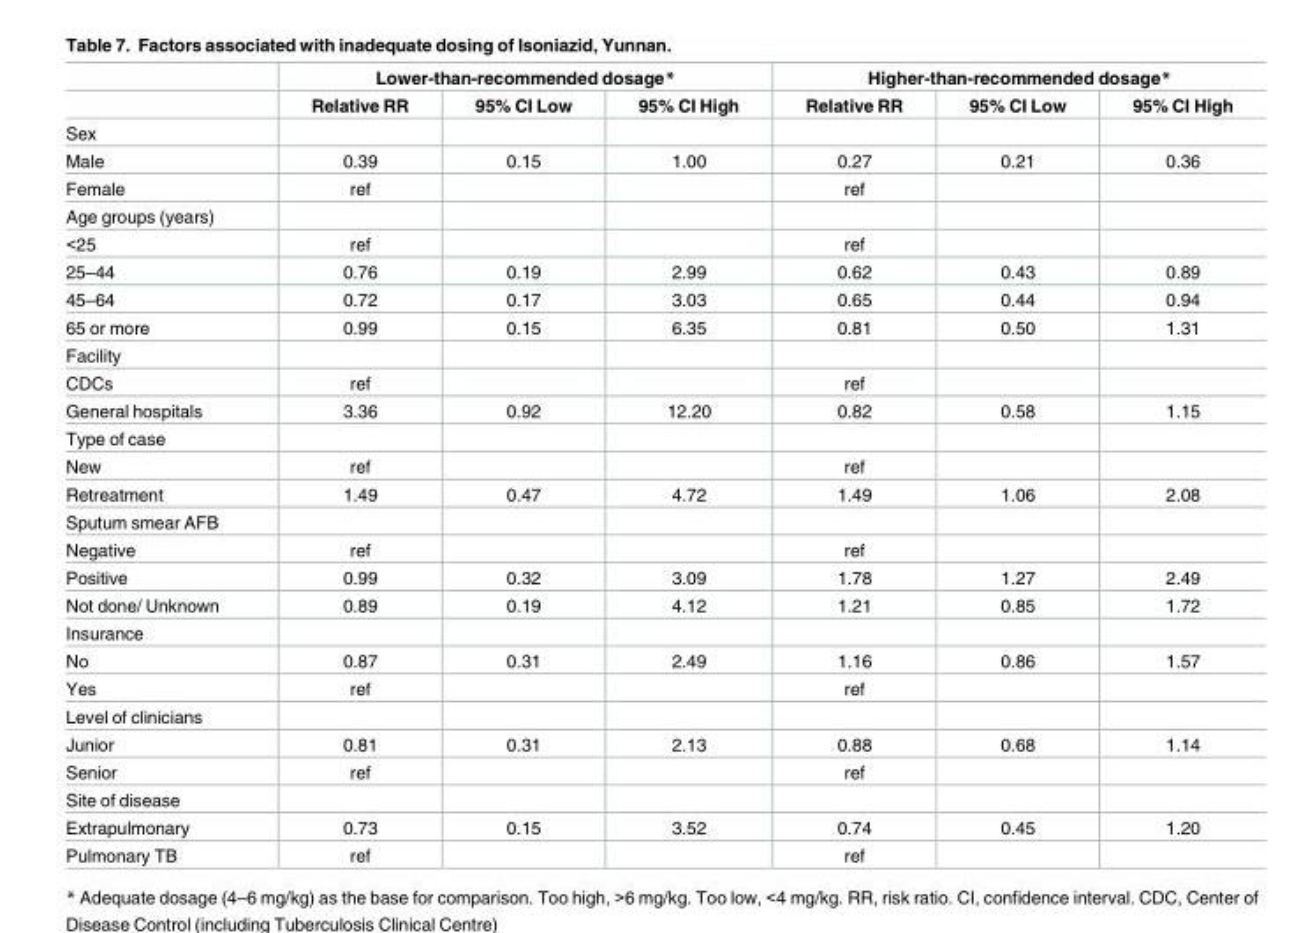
<table><thead><tr><td rowspan="2"></td><td colspan="3">Lower-than-recommended dosage*</td><td colspan="3">Higher-than-recommended dosage*</td></tr><tr><td>Relative RR</td><td>95% CI Low</td><td>95% CI High</td><td>Relative RR</td><td>95% CI Low</td><td>95% CI High</td></tr></thead><tbody><tr><td colspan="7">Sex</td></tr><tr><td>Male</td><td>0.39</td><td>0.15</td><td>1.00</td><td>0.27</td><td>0.21</td><td>0.36</td></tr><tr><td>Female</td><td>ref</td><td></td><td></td><td>ref</td><td></td><td></td></tr><tr><td colspan="7">Age groups (years)</td></tr><tr><td>&lt;25</td><td>ref</td><td></td><td></td><td>ref</td><td></td><td></td></tr><tr><td>25–44</td><td>0.76</td><td>0.19</td><td>2.99</td><td>0.62</td><td>0.43</td><td>0.89</td></tr><tr><td>45–64</td><td>0.72</td><td>0.17</td><td>3.03</td><td>0.65</td><td>0.44</td><td>0.94</td></tr><tr><td>65 or more</td><td>0.99</td><td>0.15</td><td>6.35</td><td>0.81</td><td>0.50</td><td>1.31</td></tr><tr><td colspan="7">Facility</td></tr><tr><td>CDCs</td><td>ref</td><td></td><td></td><td>ref</td><td></td><td></td></tr><tr><td>General hospitals</td><td>3.36</td><td>0.92</td><td>12.20</td><td>0.82</td><td>0.58</td><td>1.15</td></tr><tr><td colspan="7">Type of case</td></tr><tr><td>New</td><td>ref</td><td></td><td></td><td>ref</td><td></td><td></td></tr><tr><td>Retreatment</td><td>1.49</td><td>0.47</td><td>4.72</td><td>1.49</td><td>1.06</td><td>2.08</td></tr><tr><td colspan="7">Sputum smear AFB</td></tr><tr><td>Negative</td><td>ref</td><td></td><td></td><td>ref</td><td></td><td></td></tr><tr><td>Positive</td><td>0.99</td><td>0.32</td><td>3.09</td><td>1.78</td><td>1.27</td><td>2.49</td></tr><tr><td>Not done/ Unknown</td><td>0.89</td><td>0.19</td><td>4.12</td><td>1.21</td><td>0.85</td><td>1.72</td></tr><tr><td colspan="7">Insurance</td></tr><tr><td>No</td><td>0.87</td><td>0.31</td><td>2.49</td><td>1.16</td><td>0.86</td><td>1.57</td></tr><tr><td>Yes</td><td>ref</td><td></td><td></td><td>ref</td><td></td><td></td></tr><tr><td colspan="7">Level of clinicians</td></tr><tr><td>Junior</td><td>0.81</td><td>0.31</td><td>2.13</td><td>0.88</td><td>0.68</td><td>1.14</td></tr><tr><td>Senior</td><td>ref</td><td></td><td></td><td>ref</td><td></td><td></td></tr><tr><td colspan="7">Site of disease</td></tr><tr><td>Extrapulmonary</td><td>0.73</td><td>0.15</td><td>3.52</td><td>0.74</td><td>0.45</td><td>1.20</td></tr><tr><td>Pulmonary TB</td><td>ref</td><td></td><td></td><td>ref</td><td></td><td></td></tr></tbody></table>